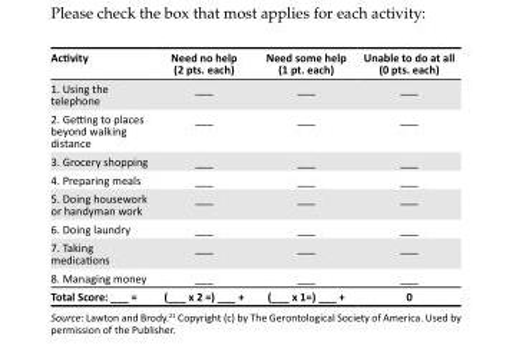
<table><thead><tr><td>Activity</td><td>Need no help (2 pts. each)</td><td>Need some help (1 pt. each)</td><td>Unable to do at all (0 pts. each)</td></tr></thead><tbody><tr><td>1. Using the telephone</td><td>___</td><td>___</td><td>___</td></tr><tr><td>2. Getting to places beyond walking distance</td><td>___</td><td>___</td><td>___</td></tr><tr><td>3. Grocery shopping</td><td>___</td><td>___</td><td>___</td></tr><tr><td>4. Preparing meals</td><td>___</td><td>___</td><td>___</td></tr><tr><td>5. Doing housework or handyman work</td><td>___</td><td>___</td><td>___</td></tr><tr><td>6. Doing laundry</td><td>___</td><td>___</td><td>___</td></tr><tr><td>7. Taking medications</td><td>___</td><td>___</td><td>___</td></tr><tr><td>8. Managing money</td><td>___</td><td>___</td><td>___</td></tr><tr><td>Total Score: ___ =</td><td>(___ x 2 =) ___ +</td><td>(___ x 1=) ___ +</td><td>0</td></tr></tbody></table>